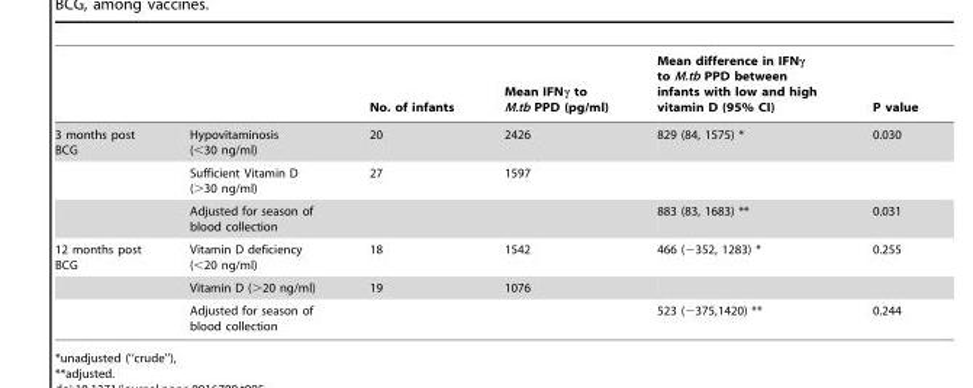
<table><thead><tr><td></td><td></td><td>No. of infants</td><td>Mean IFNγ to M.tb PPD (pg/ml)</td><td>Mean difference in IFNγ to M.tb PPD between infants with low and high vitamin D (95% CI)</td><td>P value</td></tr></thead><tbody><tr><td rowspan="3">3 months post BCG</td><td>Hypovitaminosis (&lt;30 ng/ml)</td><td>20</td><td>2426</td><td>829 (84, 1575) *</td><td>0.030</td></tr><tr><td>Sufficient Vitamin D (&gt;30 ng/ml)</td><td>27</td><td>1597</td><td></td><td></td></tr><tr><td>Adjusted for season of blood collection</td><td></td><td></td><td>883 (83, 1683) **</td><td>0.031</td></tr><tr><td rowspan="3">12 months post BCG</td><td>Vitamin D deficiency (&lt;20 ng/ml)</td><td>18</td><td>1542</td><td>466 (−352, 1283) *</td><td>0.255</td></tr><tr><td>Vitamin D (&gt;20 ng/ml)</td><td>19</td><td>1076</td><td></td><td></td></tr><tr><td>Adjusted for season of blood collection</td><td></td><td></td><td>523 (−375,1420) **</td><td>0.244</td></tr></tbody></table>